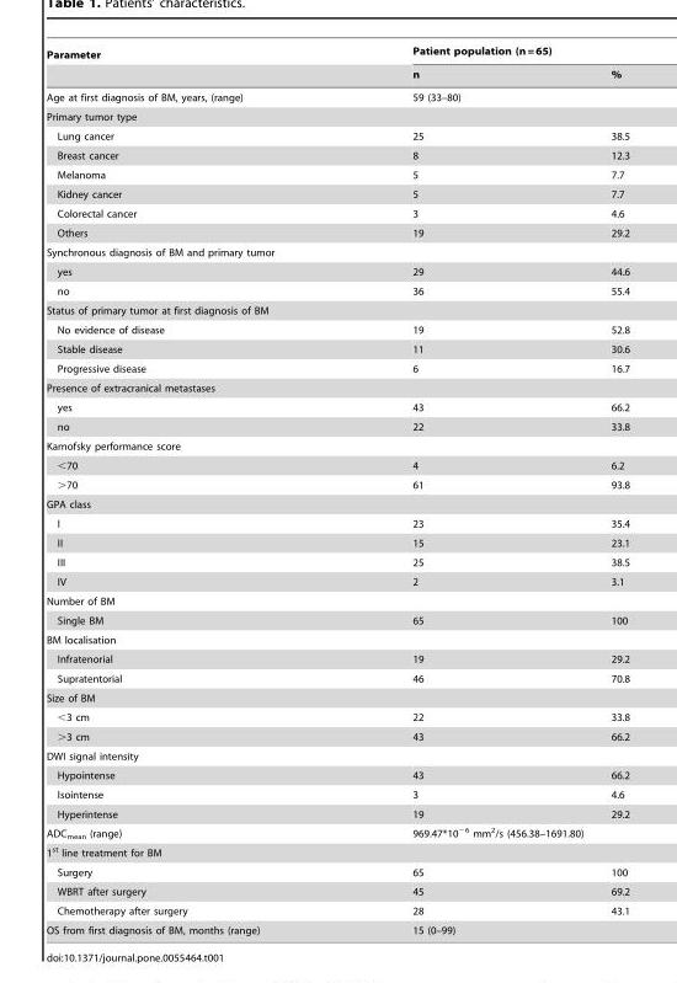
<table><thead><tr><td rowspan="2">Parameter</td><td colspan="2">Patient population (n = 65)</td></tr><tr><td>n</td><td>%</td></tr></thead><tbody><tr><td>Age at first diagnosis of BM, years, (range)</td><td colspan="2">59 (33–80)</td></tr><tr><td colspan="3">Primary tumor type</td></tr><tr><td>Lung cancer</td><td>25</td><td>38.5</td></tr><tr><td>Breast cancer</td><td>8</td><td>12.3</td></tr><tr><td>Melanoma</td><td>5</td><td>7.7</td></tr><tr><td>Kidney cancer</td><td>5</td><td>7.7</td></tr><tr><td>Colorectal cancer</td><td>3</td><td>4.6</td></tr><tr><td>Others</td><td>19</td><td>29.2</td></tr><tr><td colspan="3">Synchronous diagnosis of BM and primary tumor</td></tr><tr><td>yes</td><td>29</td><td>44.6</td></tr><tr><td>no</td><td>36</td><td>55.4</td></tr><tr><td colspan="3">Status of primary tumor at first diagnosis of BM</td></tr><tr><td>No evidence of disease</td><td>19</td><td>52.8</td></tr><tr><td>Stable disease</td><td>11</td><td>30.6</td></tr><tr><td>Progressive disease</td><td>6</td><td>16.7</td></tr><tr><td colspan="3">Presence of extracranical metastases</td></tr><tr><td>yes</td><td>43</td><td>66.2</td></tr><tr><td>no</td><td>22</td><td>33.8</td></tr><tr><td colspan="3">Karnofsky performance score</td></tr><tr><td>&lt;70</td><td>4</td><td>6.2</td></tr><tr><td>&gt;70</td><td>61</td><td>93.8</td></tr><tr><td colspan="3">GPA class</td></tr><tr><td>I</td><td>23</td><td>35.4</td></tr><tr><td>II</td><td>15</td><td>23.1</td></tr><tr><td>III</td><td>25</td><td>38.5</td></tr><tr><td>IV</td><td>2</td><td>3.1</td></tr><tr><td colspan="3">Number of BM</td></tr><tr><td>Single BM</td><td>65</td><td>100</td></tr><tr><td colspan="3">BM localisation</td></tr><tr><td>Infratenorial</td><td>19</td><td>29.2</td></tr><tr><td>Supratentorial</td><td>46</td><td>70.8</td></tr><tr><td colspan="3">Size of BM</td></tr><tr><td>&lt;3 cm</td><td>22</td><td>33.8</td></tr><tr><td>&gt;3 cm</td><td>43</td><td>66.2</td></tr><tr><td colspan="3">DWI signal intensity</td></tr><tr><td>Hypointense</td><td>43</td><td>66.2</td></tr><tr><td>Isointense</td><td>3</td><td>4.6</td></tr><tr><td>Hyperintense</td><td>19</td><td>29.2</td></tr><tr><td>ADC<sub>mean</sub> (range)</td><td colspan="2">969.47*10<sup>−6</sup> mm<sup>2</sup>/s (456.38–1691.80)</td></tr><tr><td colspan="3">1<sup>st</sup> line treatment for BM</td></tr><tr><td>Surgery</td><td>65</td><td>100</td></tr><tr><td>WBRT after surgery</td><td>45</td><td>69.2</td></tr><tr><td>Chemotherapy after surgery</td><td>28</td><td>43.1</td></tr><tr><td>OS from first diagnosis of BM, months (range)</td><td colspan="2">15 (0–99)</td></tr></tbody></table>